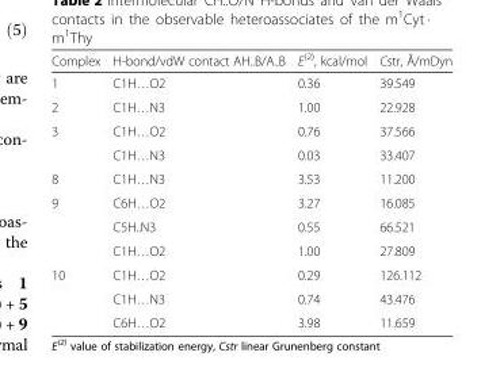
<table><thead><tr><td>Complex</td><td>H-bond/vdW contact AH..B/A..B</td><td>E<sup>(2)</sup>, kcal/mol</td><td>Cstr, Å/mDyn</td></tr></thead><tbody><tr><td>1</td><td>C1H…O2</td><td>0.36</td><td>39.549</td></tr><tr><td>2</td><td>C1H…N3</td><td>1.00</td><td>22.928</td></tr><tr><td rowspan="2">3</td><td>C1H…O2</td><td>0.76</td><td>37.566</td></tr><tr><td>C1H…N3</td><td>0.03</td><td>33.407</td></tr><tr><td>8</td><td>C1H…N3</td><td>3.53</td><td>11.200</td></tr><tr><td rowspan="3">9</td><td>C6H…O2</td><td>3.27</td><td>16.085</td></tr><tr><td>C5H..N3</td><td>0.55</td><td>66.521</td></tr><tr><td>C1H…O2</td><td>1.00</td><td>27.809</td></tr><tr><td rowspan="3">10</td><td>C1H…O2</td><td>0.29</td><td>126.112</td></tr><tr><td>C1H…N3</td><td>0.74</td><td>43.476</td></tr><tr><td>C6H…O2</td><td>3.98</td><td>11.659</td></tr></tbody></table>